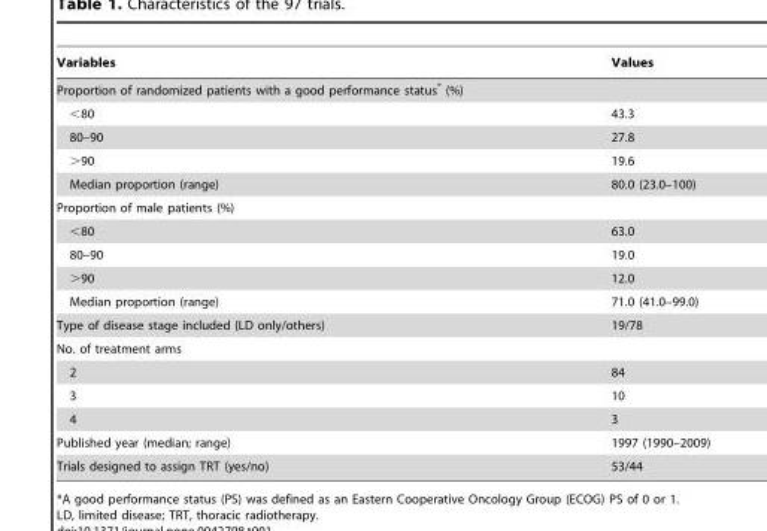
<table><thead><tr><td>Variables</td><td>Values</td></tr></thead><tbody><tr><td colspan="2">Proportion of randomized patients with a good performance status* (%)</td></tr><tr><td>&lt;80</td><td>43.3</td></tr><tr><td>80–90</td><td>27.8</td></tr><tr><td>&gt;90</td><td>19.6</td></tr><tr><td>Median proportion (range)</td><td>80.0 (23.0–100)</td></tr><tr><td colspan="2">Proportion of male patients (%)</td></tr><tr><td>&lt;80</td><td>63.0</td></tr><tr><td>80–90</td><td>19.0</td></tr><tr><td>&gt;90</td><td>12.0</td></tr><tr><td>Median proportion (range)</td><td>71.0 (41.0–99.0)</td></tr><tr><td>Type of disease stage included (LD only/others)</td><td>19/78</td></tr><tr><td colspan="2">No. of treatment arms</td></tr><tr><td>2</td><td>84</td></tr><tr><td>3</td><td>10</td></tr><tr><td>4</td><td>3</td></tr><tr><td>Published year (median; range)</td><td>1997 (1990–2009)</td></tr><tr><td>Trials designed to assign TRT (yes/no)</td><td>53/44</td></tr></tbody></table>